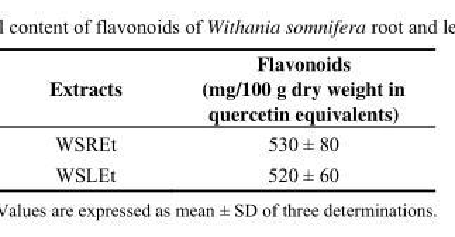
<table><thead><tr><td>Extracts</td><td>Flavonoids (mg/100 g dry weight in quercetin equivalents)</td></tr></thead><tbody><tr><td>WSREt</td><td>530 ± 80</td></tr><tr><td>WSLEt</td><td>520 ± 60</td></tr></tbody></table>